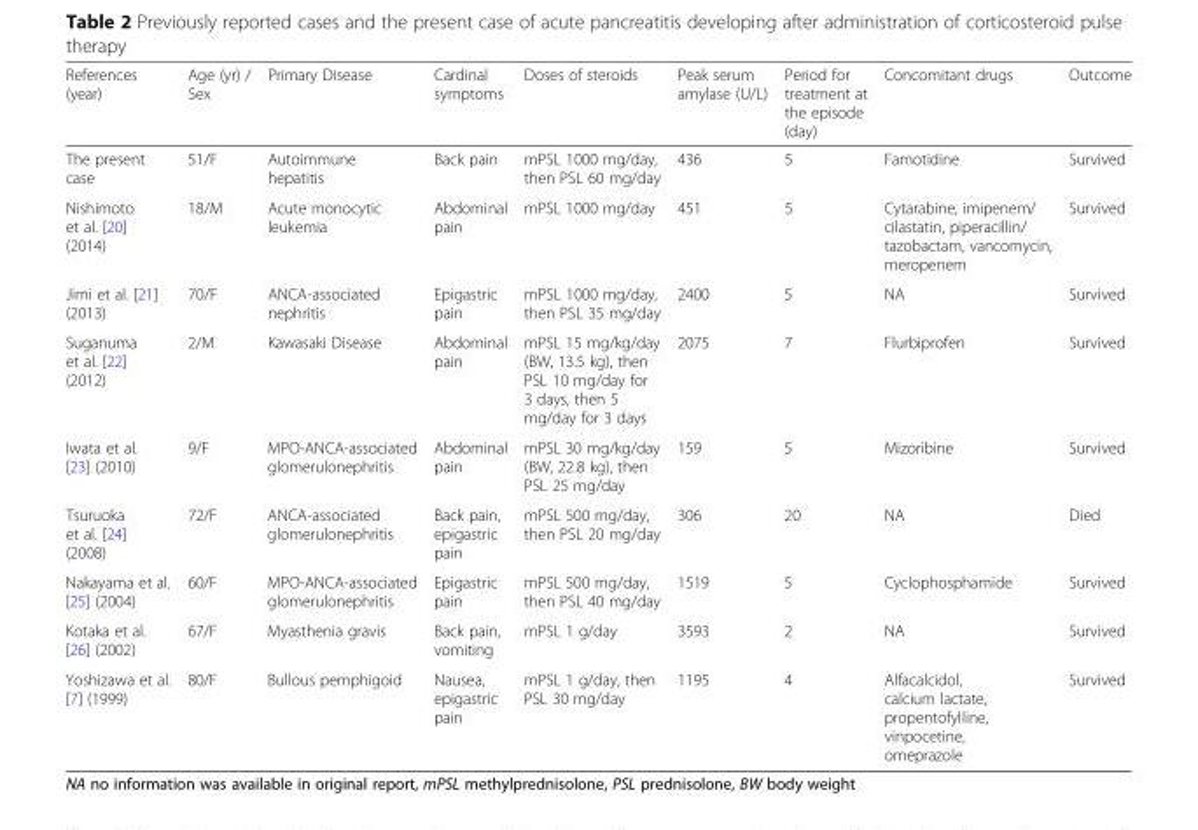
<table><thead><tr><td>References (year)</td><td>Age (yr) / Sex</td><td>Primary Disease</td><td>Cardinal symptoms</td><td>Doses of steroids</td><td>Peak serum amylase (U/L)</td><td>Period for treatment at the episode (day)</td><td>Concomitant drugs</td><td>Outcome</td></tr></thead><tbody><tr><td>The present case</td><td>51/F</td><td>Autoimmune hepatitis</td><td>Back pain</td><td>mPSL 1000 mg/day, then PSL 60 mg/day</td><td>436</td><td>5</td><td>Famotidine</td><td>Survived</td></tr><tr><td>Nishimoto et al. [20] (2014)</td><td>18/M</td><td>Acute monocytic leukemia</td><td>Abdominal pain</td><td>mPSL 1000 mg/day</td><td>451</td><td>5</td><td>Cytarabine, imipenem/ cilastatin, piperacillin/ tazobactam, vancomycin, meropenem</td><td>Survived</td></tr><tr><td>Jimi et al. [21] (2013)</td><td>70/F</td><td>ANCA-associated nephritis</td><td>Epigastric pain</td><td>mPSL 1000 mg/day, then PSL 35 mg/day</td><td>2400</td><td>5</td><td>NA</td><td>Survived</td></tr><tr><td>Suganuma et al. [22] (2012)</td><td>2/M</td><td>Kawasaki Disease</td><td>Abdominal pain</td><td>mPSL 15 mg/kg/day (BW, 13.5 kg), then PSL 10 mg/day for 3 days, then 5 mg/day for 3 days</td><td>2075</td><td>7</td><td>Flurbiprofen</td><td>Survived</td></tr><tr><td>Iwata et al. [23] (2010)</td><td>9/F</td><td>MPO-ANCA-associated glomerulonephritis</td><td>Abdominal pain</td><td>mPSL 30 mg/kg/day (BW, 22.8 kg), then PSL 25 mg/day</td><td>159</td><td>5</td><td>Mizoribine</td><td>Survived</td></tr><tr><td>Tsuruoka et al. [24] (2008)</td><td>72/F</td><td>ANCA-associated glomerulonephritis</td><td>Back pain, epigastric pain</td><td>mPSL 500 mg/day, then PSL 20 mg/day</td><td>306</td><td>20</td><td>NA</td><td>Died</td></tr><tr><td>Nakayama et al. [25] (2004)</td><td>60/F</td><td>MPO-ANCA-associated glomerulonephritis</td><td>Epigastric pain</td><td>mPSL 500 mg/day, then PSL 40 mg/day</td><td>1519</td><td>5</td><td>Cyclophosphamide</td><td>Survived</td></tr><tr><td>Kotaka et al. [26] (2002)</td><td>67/F</td><td>Myasthenia gravis</td><td>Back pain, vomiting</td><td>mPSL 1 g/day</td><td>3593</td><td>2</td><td>NA</td><td>Survived</td></tr><tr><td>Yoshizawa et al. [7] (1999)</td><td>80/F</td><td>Bullous pemphigoid</td><td>Nausea, epigastric pain</td><td>mPSL 1 g/day, then PSL 30 mg/day</td><td>1195</td><td>4</td><td>Alfacalcidol, calcium lactate, propentofylline, vinpocetine, omeprazole</td><td>Survived</td></tr></tbody></table>